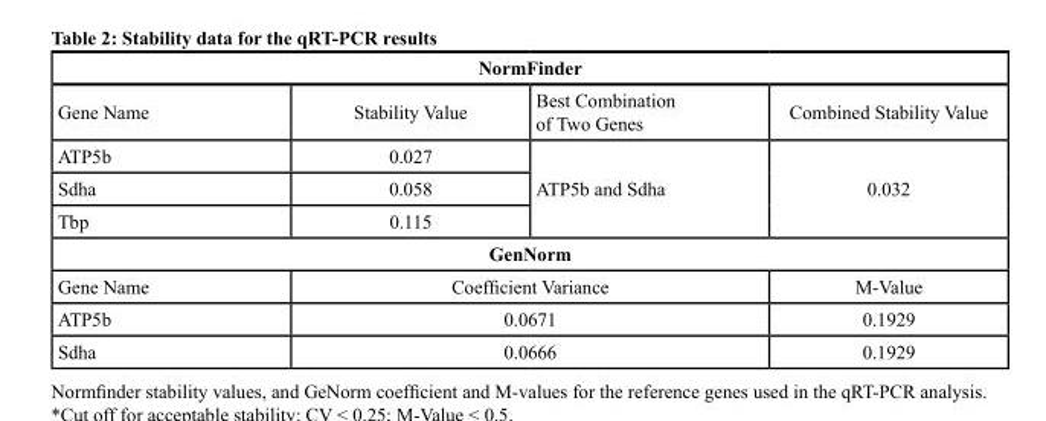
<table><tbody><tr><td colspan="4">NormFinder</td></tr><tr><td>Gene Name</td><td>Stability Value</td><td>Best Combination of Two Genes</td><td>Combined Stability Value</td></tr><tr><td>ATP5b</td><td>0.027</td><td rowspan="3">ATP5b and Sdha</td><td rowspan="3">0.032</td></tr><tr><td>Sdha</td><td>0.058</td></tr><tr><td>Tbp</td><td>0.115</td></tr><tr><td colspan="4">GenNorm</td></tr><tr><td>Gene Name</td><td colspan="2">Coefficient Variance</td><td>M-Value</td></tr><tr><td>ATP5b</td><td colspan="2">0.0671</td><td>0.1929</td></tr><tr><td>Sdha</td><td colspan="2">0.0666</td><td>0.1929</td></tr></tbody></table>